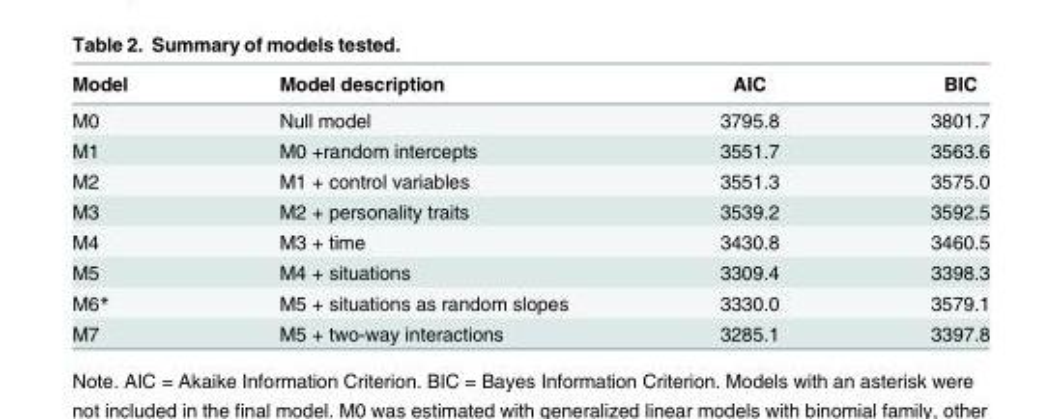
<table><thead><tr><td>Model</td><td>Model description</td><td>AIC</td><td>BIC</td></tr></thead><tbody><tr><td>M0</td><td>Null model</td><td>3795.8</td><td>3801.7</td></tr><tr><td>M1</td><td>M0 +random intercepts</td><td>3551.7</td><td>3563.6</td></tr><tr><td>M2</td><td>M1 + control variables</td><td>3551.3</td><td>3575.0</td></tr><tr><td>M3</td><td>M2 + personality traits</td><td>3539.2</td><td>3592.5</td></tr><tr><td>M4</td><td>M3 + time</td><td>3430.8</td><td>3460.5</td></tr><tr><td>M5</td><td>M4 + situations</td><td>3309.4</td><td>3398.3</td></tr><tr><td>M6*</td><td>M5 + situations as random slopes</td><td>3330.0</td><td>3579.1</td></tr><tr><td>M7</td><td>M5 + two-way interactions</td><td>3285.1</td><td>3397.8</td></tr></tbody></table>